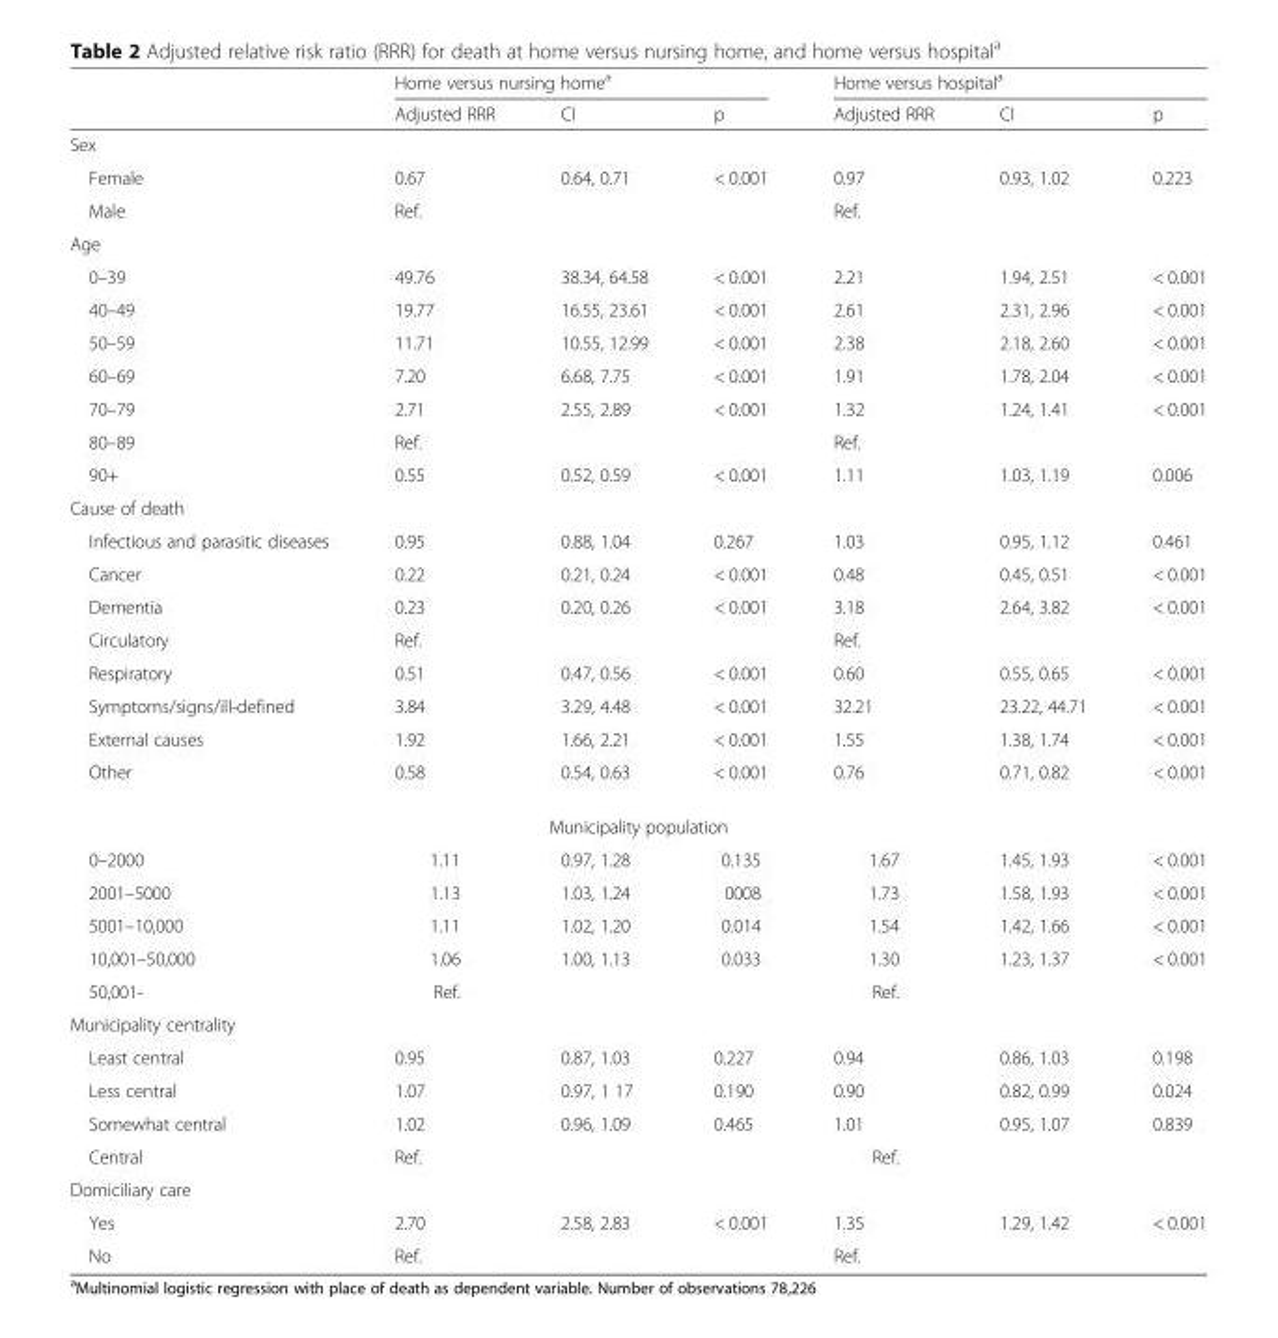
<table><thead><tr><td rowspan="2"></td><td colspan="3">Home versus nursing home<sup>a</sup></td><td colspan="3">Home versus hospital<sup>a</sup></td></tr><tr><td>Adjusted RRR</td><td>CI</td><td>p</td><td>Adjusted RRR</td><td>CI</td><td>p</td></tr></thead><tbody><tr><td colspan="7">Sex</td></tr><tr><td>Female</td><td>0.67</td><td>0.64, 0.71</td><td>&lt; 0.001</td><td>0.97</td><td>0.93, 1.02</td><td>0.223</td></tr><tr><td>Male</td><td>Ref.</td><td></td><td></td><td>Ref.</td><td></td><td></td></tr><tr><td colspan="7">Age</td></tr><tr><td>0–39</td><td>49.76</td><td>38.34, 64.58</td><td>&lt; 0.001</td><td>2.21</td><td>1.94, 2.51</td><td>&lt; 0.001</td></tr><tr><td>40–49</td><td>19.77</td><td>16.55, 23.61</td><td>&lt; 0.001</td><td>2.61</td><td>2.31, 2.96</td><td>&lt; 0.001</td></tr><tr><td>50–59</td><td>11.71</td><td>10.55, 12.99</td><td>&lt; 0.001</td><td>2.38</td><td>2.18, 2.60</td><td>&lt; 0.001</td></tr><tr><td>60–69</td><td>7.20</td><td>6.68, 7.75</td><td>&lt; 0.001</td><td>1.91</td><td>1.78, 2.04</td><td>&lt; 0.001</td></tr><tr><td>70–79</td><td>2.71</td><td>2.55, 2.89</td><td>&lt; 0.001</td><td>1.32</td><td>1.24, 1.41</td><td>&lt; 0.001</td></tr><tr><td>80–89</td><td>Ref.</td><td></td><td></td><td>Ref.</td><td></td><td></td></tr><tr><td>90+</td><td>0.55</td><td>0.52, 0.59</td><td>&lt; 0.001</td><td>1.11</td><td>1.03, 1.19</td><td>0.006</td></tr><tr><td colspan="7">Cause of death</td></tr><tr><td>Infectious and parasitic diseases</td><td>0.95</td><td>0.88, 1.04</td><td>0.267</td><td>1.03</td><td>0.95, 1.12</td><td>0.461</td></tr><tr><td>Cancer</td><td>0.22</td><td>0.21, 0.24</td><td>&lt; 0.001</td><td>0.48</td><td>0.45, 0.51</td><td>&lt; 0.001</td></tr><tr><td>Dementia</td><td>0.23</td><td>0.20, 0.26</td><td>&lt; 0.001</td><td>3.18</td><td>2.64, 3.82</td><td>&lt; 0.001</td></tr><tr><td>Circulatory</td><td>Ref.</td><td></td><td></td><td>Ref.</td><td></td><td></td></tr><tr><td>Respiratory</td><td>0.51</td><td>0.47, 0.56</td><td>&lt; 0.001</td><td>0.60</td><td>0.55, 0.65</td><td>&lt; 0.001</td></tr><tr><td>Symptoms/signs/ill-defined</td><td>3.84</td><td>3.29, 4.48</td><td>&lt; 0.001</td><td>32.21</td><td>23.22, 44.71</td><td>&lt; 0.001</td></tr><tr><td>External causes</td><td>1.92</td><td>1.66, 2.21</td><td>&lt; 0.001</td><td>1.55</td><td>1.38, 1.74</td><td>&lt; 0.001</td></tr><tr><td>Other</td><td>0.58</td><td>0.54, 0.63</td><td>&lt; 0.001</td><td>0.76</td><td>0.71, 0.82</td><td>&lt; 0.001</td></tr><tr><td colspan="7">Municipality population</td></tr><tr><td>0–2000</td><td>1.11</td><td>0.97, 1.28</td><td>0.135</td><td>1.67</td><td>1.45, 1.93</td><td>&lt; 0.001</td></tr><tr><td>2001–5000</td><td>1.13</td><td>1.03, 1.24</td><td>0008</td><td>1.73</td><td>1.58, 1.93</td><td>&lt; 0.001</td></tr><tr><td>5001–10,000</td><td>1.11</td><td>1.02, 1.20</td><td>0.014</td><td>1.54</td><td>1.42, 1.66</td><td>&lt; 0.001</td></tr><tr><td>10,001–50,000</td><td>1.06</td><td>1.00, 1.13</td><td>0.033</td><td>1.30</td><td>1.23, 1.37</td><td>&lt; 0.001</td></tr><tr><td>50,001-</td><td>Ref.</td><td></td><td></td><td>Ref.</td><td></td><td></td></tr><tr><td colspan="7">Municipality centrality</td></tr><tr><td>Least central</td><td>0.95</td><td>0.87, 1.03</td><td>0.227</td><td>0.94</td><td>0.86, 1.03</td><td>0.198</td></tr><tr><td>Less central</td><td>1.07</td><td>0.97, 1 17</td><td>0.190</td><td>0.90</td><td>0.82, 0.99</td><td>0.024</td></tr><tr><td>Somewhat central</td><td>1.02</td><td>0.96, 1.09</td><td>0.465</td><td>1.01</td><td>0.95, 1.07</td><td>0.839</td></tr><tr><td>Central</td><td>Ref.</td><td></td><td></td><td>Ref.</td><td></td><td></td></tr><tr><td colspan="7">Domiciliary care</td></tr><tr><td>Yes</td><td>2.70</td><td>2.58, 2.83</td><td>&lt; 0.001</td><td>1.35</td><td>1.29, 1.42</td><td>&lt; 0.001</td></tr><tr><td>No</td><td>Ref.</td><td></td><td></td><td>Ref.</td><td></td><td></td></tr></tbody></table>